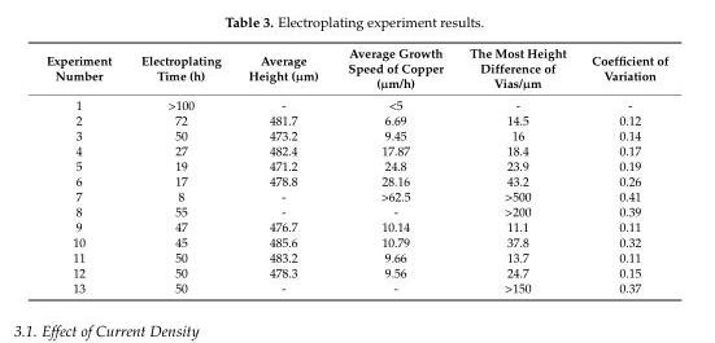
<table><thead><tr><td>Experiment Number</td><td>Electroplating Time (h)</td><td>Average Height (µm)</td><td>Average Growth Speed of Copper (µm/h)</td><td>The Most Height Difference of Vias/µm</td><td>Coefficient of Variation</td></tr></thead><tbody><tr><td>1</td><td>&gt;100</td><td>-</td><td>&lt;5</td><td>-</td><td>-</td></tr><tr><td>2</td><td>72</td><td>481.7</td><td>6.69</td><td>14.5</td><td>0.12</td></tr><tr><td>3</td><td>50</td><td>473.2</td><td>9.45</td><td>16</td><td>0.14</td></tr><tr><td>4</td><td>27</td><td>482.4</td><td>17.87</td><td>18.4</td><td>0.17</td></tr><tr><td>5</td><td>19</td><td>471.2</td><td>24.8</td><td>23.9</td><td>0.19</td></tr><tr><td>6</td><td>17</td><td>478.8</td><td>28.16</td><td>43.2</td><td>0.26</td></tr><tr><td>7</td><td>8</td><td>-</td><td>&gt;62.5</td><td>&gt;500</td><td>0.41</td></tr><tr><td>8</td><td>55</td><td>-</td><td>-</td><td>&gt;200</td><td>0.39</td></tr><tr><td>9</td><td>47</td><td>476.7</td><td>10.14</td><td>11.1</td><td>0.11</td></tr><tr><td>10</td><td>45</td><td>485.6</td><td>10.79</td><td>37.8</td><td>0.32</td></tr><tr><td>11</td><td>50</td><td>483.2</td><td>9.66</td><td>13.7</td><td>0.11</td></tr><tr><td>12</td><td>50</td><td>478.3</td><td>9.56</td><td>24.7</td><td>0.15</td></tr><tr><td>13</td><td>50</td><td>-</td><td>-</td><td>&gt;150</td><td>0.37</td></tr></tbody></table>